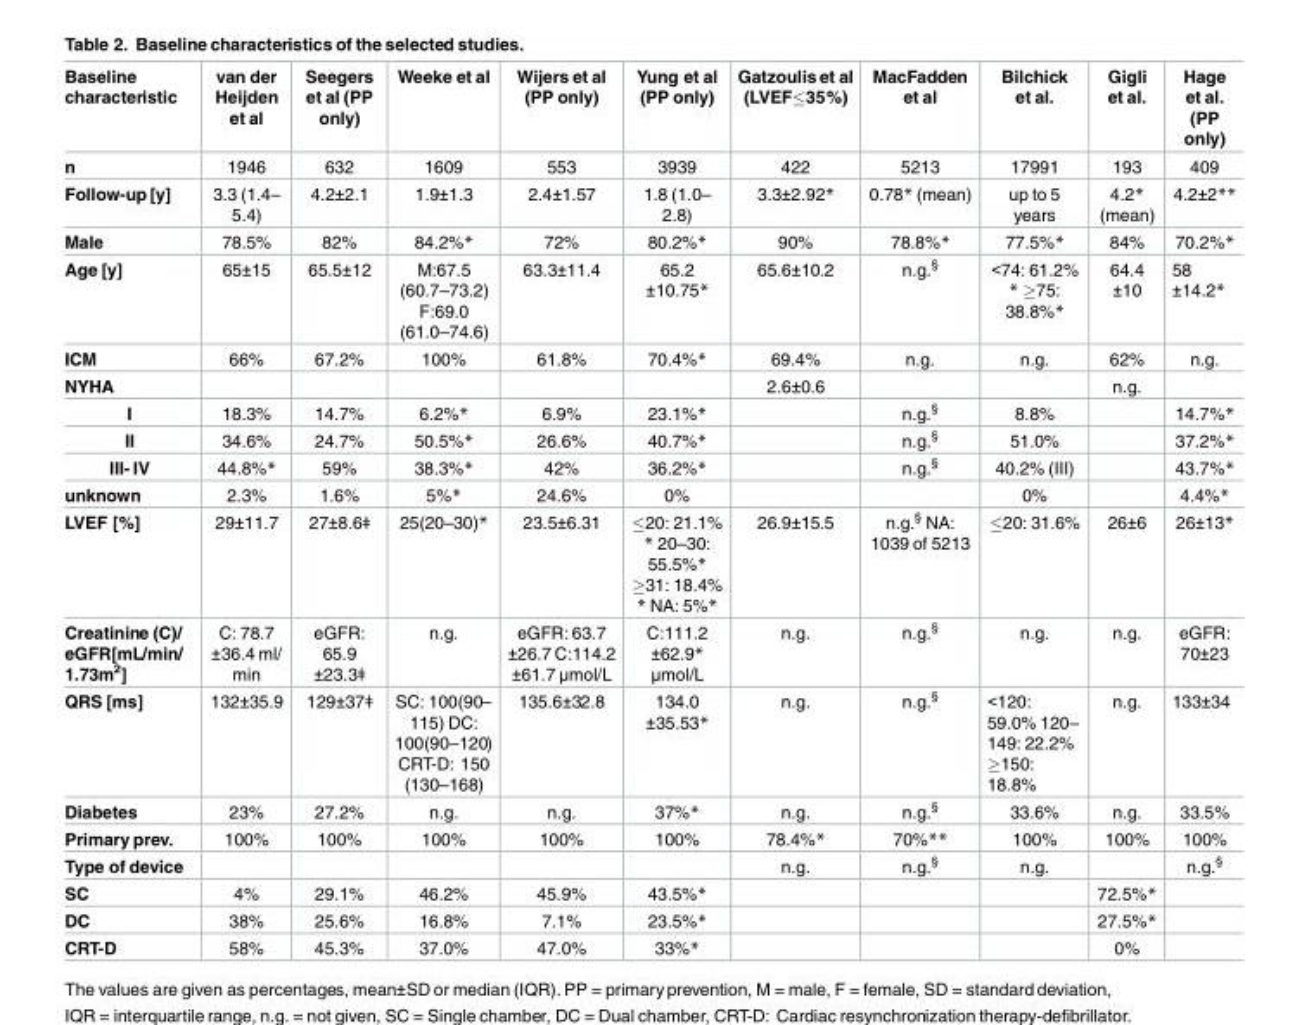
<table><thead><tr><td>Baseline characteristic</td><td>van der Heijden et al</td><td>Seegers et al (PP only)</td><td>Weeke et al</td><td>Wijers et al (PP only)</td><td>Yung et al (PP only)</td><td>Gatzoulis et al (LVEF≤35%)</td><td>MacFadden et al</td><td>Bilchick et al.</td><td>Gigli et al.</td><td>Hage et al. (PP only)</td></tr></thead><tbody><tr><td>n</td><td>1946</td><td>632</td><td>1609</td><td>553</td><td>3939</td><td>422</td><td>5213</td><td>17991</td><td>193</td><td>409</td></tr><tr><td>Follow-up [y]</td><td>3.3 (1.4– 5.4)</td><td>4.2±2.1</td><td>1.9±1.3</td><td>2.4±1.57</td><td>1.8 (1.0– 2.8)</td><td>3.3±2.92*</td><td>0.78* (mean)</td><td>up to 5 years</td><td>4.2* (mean)</td><td>4.2±2**</td></tr><tr><td>Male</td><td>78.5%</td><td>82%</td><td>84.2%*</td><td>72%</td><td>80.2%*</td><td>90%</td><td>78.8%*</td><td>77.5%*</td><td>84%</td><td>70.2%*</td></tr><tr><td>Age [y]</td><td>65±15</td><td>65.5±12</td><td>M:67.5 (60.7–73.2) F:69.0 (61.0–74.6)</td><td>63.3±11.4</td><td>65.2 ±10.75*</td><td>65.6±10.2</td><td>n.g.<sup>§</sup></td><td>&lt;74: 61.2% * ≥75: 38.8%*</td><td>64.4 ±10</td><td>58 ±14.2*</td></tr><tr><td>ICM</td><td>66%</td><td>67.2%</td><td>100%</td><td>61.8%</td><td>70.4%*</td><td>69.4%</td><td>n.g.</td><td>n.g.</td><td>62%</td><td>n.g.</td></tr><tr><td>NYHA</td><td></td><td></td><td></td><td></td><td></td><td>2.6±0.6</td><td></td><td></td><td>n.g.</td><td></td></tr><tr><td>I</td><td>18.3%</td><td>14.7%</td><td>6.2%*</td><td>6.9%</td><td>23.1%*</td><td></td><td>n.g.<sup>§</sup></td><td>8.8%</td><td></td><td>14.7%*</td></tr><tr><td>II</td><td>34.6%</td><td>24.7%</td><td>50.5%*</td><td>26.6%</td><td>40.7%*</td><td></td><td>n.g.<sup>§</sup></td><td>51.0%</td><td></td><td>37.2%*</td></tr><tr><td>III- IV</td><td>44.8%*</td><td>59%</td><td>38.3%*</td><td>42%</td><td>36.2%*</td><td></td><td>n.g.<sup>§</sup></td><td>40.2% (III)</td><td></td><td>43.7%*</td></tr><tr><td>unknown</td><td>2.3%</td><td>1.6%</td><td>5%*</td><td>24.6%</td><td>0%</td><td></td><td></td><td>0%</td><td></td><td>4.4%*</td></tr><tr><td>LVEF [%]</td><td>29±11.7</td><td>27±8.6ǂ</td><td>25(20–30)*</td><td>23.5±6.31</td><td>≤20: 21.1% * 20–30: 55.5%* ≥31: 18.4% * NA: 5%*</td><td>26.9±15.5</td><td>n.g.<sup>§</sup> NA: 1039 of 5213</td><td>≤20: 31.6%</td><td>26±6</td><td>26±13*</td></tr><tr><td>Creatinine (C)/ eGFR[mL/min/ 1.73m<sup>2</sup>]</td><td>C: 78.7 ±36.4 ml/ min</td><td>eGFR: 65.9 ±23.3ǂ</td><td>n.g.</td><td>eGFR: 63.7 ±26.7 C:114.2 ±61.7 μmol/L</td><td>C:111.2 ±62.9* μmol/L</td><td>n.g.</td><td>n.g.<sup>§</sup></td><td>n.g.</td><td>n.g.</td><td>eGFR: 70±23</td></tr><tr><td>QRS [ms]</td><td>132±35.9</td><td>129±37ǂ</td><td>SC: 100(90– 115) DC: 100(90–120) CRT-D: 150 (130–168)</td><td>135.6±32.8</td><td>134.0 ±35.53*</td><td>n.g.</td><td>n.g.<sup>§</sup></td><td>&lt;120: 59.0% 120– 149: 22.2% ≥150: 18.8%</td><td>n.g.</td><td>133±34</td></tr><tr><td>Diabetes</td><td>23%</td><td>27.2%</td><td>n.g.</td><td>n.g.</td><td>37%*</td><td>n.g.</td><td>n.g.<sup>§</sup></td><td>33.6%</td><td>n.g.</td><td>33.5%</td></tr><tr><td>Primary prev.</td><td>100%</td><td>100%</td><td>100%</td><td>100%</td><td>100%</td><td>78.4%*</td><td>70%**</td><td>100%</td><td>100%</td><td>100%</td></tr><tr><td>Type of device</td><td></td><td></td><td></td><td></td><td></td><td>n.g.</td><td>n.g.<sup>§</sup></td><td>n.g.</td><td></td><td>n.g.<sup>§</sup></td></tr><tr><td>SC</td><td>4%</td><td>29.1%</td><td>46.2%</td><td>45.9%</td><td>43.5%*</td><td></td><td></td><td></td><td>72.5%*</td><td></td></tr><tr><td>DC</td><td>38%</td><td>25.6%</td><td>16.8%</td><td>7.1%</td><td>23.5%*</td><td></td><td></td><td></td><td>27.5%*</td><td></td></tr><tr><td>CRT-D</td><td>58%</td><td>45.3%</td><td>37.0%</td><td>47.0%</td><td>33%*</td><td></td><td></td><td></td><td>0%</td><td></td></tr></tbody></table>